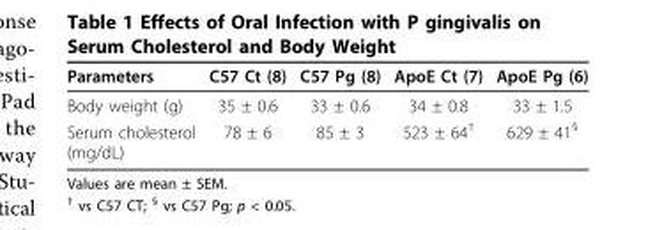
<table><thead><tr><td>Parameters</td><td>C57 Ct (8)</td><td>C57 Pg (8)</td><td>ApoE Ct (7)</td><td>ApoE Pg (6)</td></tr></thead><tbody><tr><td>Body weight (g)</td><td>35 ± 0.6</td><td>33 ± 0.6</td><td>34 ± 0.8</td><td>33 ± 1.5</td></tr><tr><td>Serum cholesterol (mg/dL)</td><td>78 ± 6</td><td>85 ± 3</td><td>523 ± 64<sup>†</sup></td><td>629 ± 41<sup>§</sup></td></tr></tbody></table>